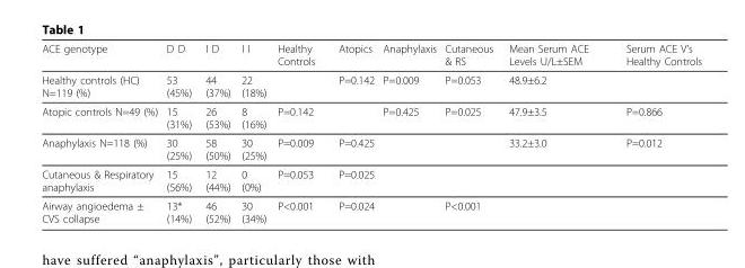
<table><thead><tr><td>ACE genotype</td><td>D D</td><td>I D</td><td>I I</td><td>Healthy Controls</td><td>Atopics</td><td>Anaphylaxis</td><td>Cutaneous &amp; RS</td><td>Mean Serum ACE Levels U/L±SEM</td><td>Serum ACE V’s Healthy Controls</td></tr></thead><tbody><tr><td>Healthy controls (HC) N=119 (%)</td><td>53 (45%)</td><td>44 (37%)</td><td>22 (18%)</td><td></td><td>P=0.142</td><td>P=0.009</td><td>P=0.053</td><td>48.9±6.2</td><td></td></tr><tr><td>Atopic controls N=49 (%)</td><td>15 (31%)</td><td>26 (53%)</td><td>8 (16%)</td><td>P=0.142</td><td></td><td>P=0.425</td><td>P=0.025</td><td>47.9±3.5</td><td>P=0.866</td></tr><tr><td>Anaphylaxis N=118 (%)</td><td>30 (25%)</td><td>58 (50%)</td><td>30 (25%)</td><td>P=0.009</td><td>P=0.425</td><td></td><td></td><td>33.2±3.0</td><td>P=0.012</td></tr><tr><td>Cutaneous &amp; Respiratory anaphylaxis</td><td>15 (56%)</td><td>12 (44%)</td><td>0 (0%)</td><td>P=0.053</td><td>P=0.025</td><td></td><td></td><td></td><td></td></tr><tr><td>Airway angioedema ± CVS collapse</td><td>13* (14%)</td><td>46 (52%)</td><td>30 (34%)</td><td>P&lt;0.001</td><td>P=0.024</td><td></td><td>P&lt;0.001</td><td></td><td></td></tr></tbody></table>